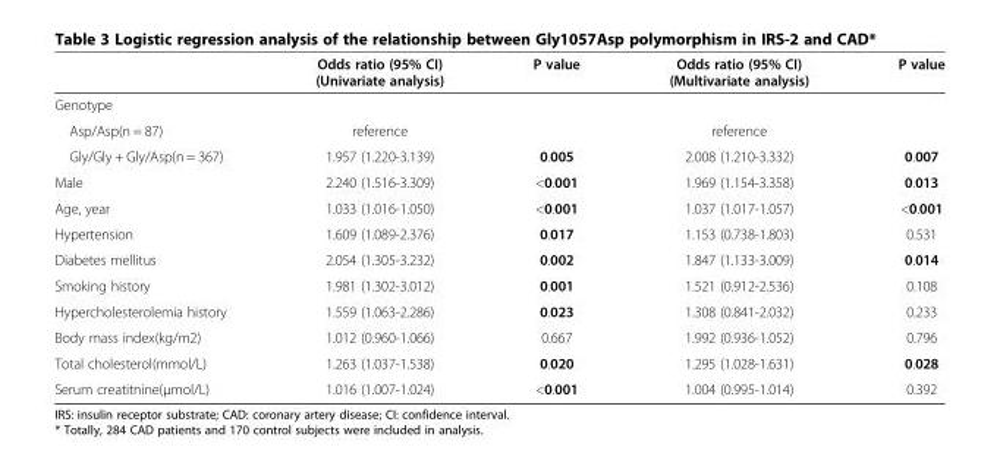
<table><thead><tr><td></td><td>Odds ratio (95% CI) (Univariate analysis)</td><td>P value</td><td>Odds ratio (95% CI) (Multivariate analysis)</td><td>P value</td></tr></thead><tbody><tr><td colspan="5">Genotype</td></tr><tr><td>Asp/Asp(n = 87)</td><td>reference</td><td></td><td>reference</td><td></td></tr><tr><td>Gly/Gly + Gly/Asp(n = 367)</td><td>1.957 (1.220-3.139)</td><td>0.005</td><td>2.008 (1.210-3.332)</td><td>0.007</td></tr><tr><td>Male</td><td>2.240 (1.516-3.309)</td><td>&lt;0.001</td><td>1.969 (1.154-3.358)</td><td>0.013</td></tr><tr><td>Age, year</td><td>1.033 (1.016-1.050)</td><td>&lt;0.001</td><td>1.037 (1.017-1.057)</td><td>&lt;0.001</td></tr><tr><td>Hypertension</td><td>1.609 (1.089-2.376)</td><td>0.017</td><td>1.153 (0.738-1.803)</td><td>0.531</td></tr><tr><td>Diabetes mellitus</td><td>2.054 (1.305-3.232)</td><td>0.002</td><td>1.847 (1.133-3.009)</td><td>0.014</td></tr><tr><td>Smoking history</td><td>1.981 (1.302-3.012)</td><td>0.001</td><td>1.521 (0.912-2.536)</td><td>0.108</td></tr><tr><td>Hypercholesterolemia history</td><td>1.559 (1.063-2.286)</td><td>0.023</td><td>1.308 (0.841-2.032)</td><td>0.233</td></tr><tr><td>Body mass index(kg/m2)</td><td>1.012 (0.960-1.066)</td><td>0.667</td><td>1.992 (0.936-1.052)</td><td>0.796</td></tr><tr><td>Total cholesterol(mmol/L)</td><td>1.263 (1.037-1.538)</td><td>0.020</td><td>1.295 (1.028-1.631)</td><td>0.028</td></tr><tr><td>Serum creatitnine(μmol/L)</td><td>1.016 (1.007-1.024)</td><td>&lt;0.001</td><td>1.004 (0.995-1.014)</td><td>0.392</td></tr></tbody></table>